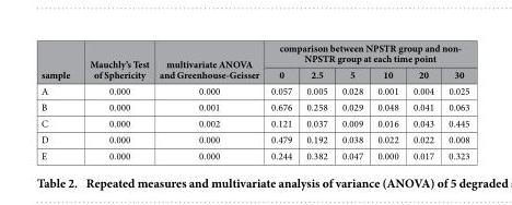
<table><thead><tr><td rowspan="2">sample</td><td rowspan="2">Mauchly’s Test of Sphericity</td><td rowspan="2">multivariate ANOVA and Greenhouse-Geisser</td><td colspan="6">comparison between NPSTR group and non- NPSTR group at each time point</td></tr><tr><td>0</td><td>2.5</td><td>5</td><td>10</td><td>20</td><td>30</td></tr></thead><tbody><tr><td>A</td><td>0.000</td><td>0.000</td><td>0.057</td><td>0.005</td><td>0.028</td><td>0.001</td><td>0.004</td><td>0.025</td></tr><tr><td>B</td><td>0.000</td><td>0.001</td><td>0.676</td><td>0.258</td><td>0.029</td><td>0.048</td><td>0.041</td><td>0.063</td></tr><tr><td>C</td><td>0.000</td><td>0.002</td><td>0.121</td><td>0.037</td><td>0.009</td><td>0.016</td><td>0.043</td><td>0.445</td></tr><tr><td>D</td><td>0.000</td><td>0.000</td><td>0.479</td><td>0.192</td><td>0.038</td><td>0.022</td><td>0.022</td><td>0.008</td></tr><tr><td>E</td><td>0.000</td><td>0.000</td><td>0.244</td><td>0.382</td><td>0.047</td><td>0.000</td><td>0.017</td><td>0.323</td></tr></tbody></table>